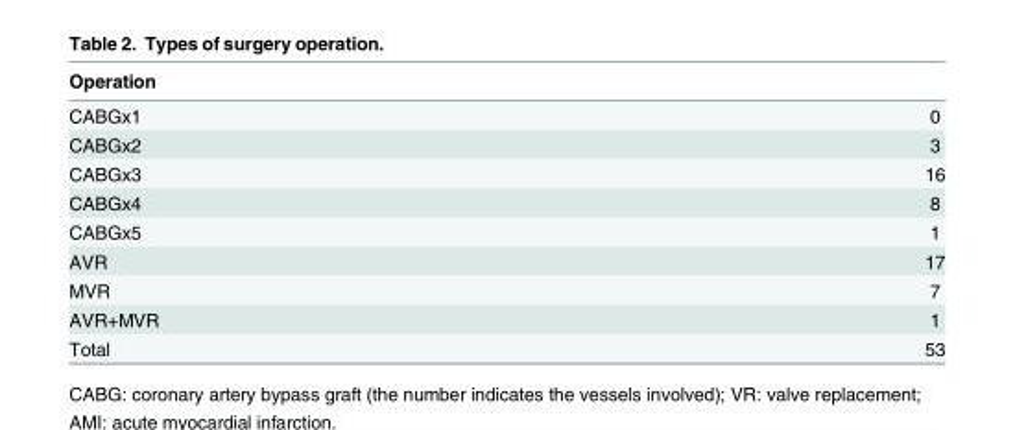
<table><thead><tr><td>Operation</td><td></td></tr></thead><tbody><tr><td>CABGx1</td><td>0</td></tr><tr><td>CABGx2</td><td>3</td></tr><tr><td>CABGx3</td><td>16</td></tr><tr><td>CABGx4</td><td>8</td></tr><tr><td>CABGx5</td><td>1</td></tr><tr><td>AVR</td><td>17</td></tr><tr><td>MVR</td><td>7</td></tr><tr><td>AVR+MVR</td><td>1</td></tr><tr><td>Total</td><td>53</td></tr></tbody></table>